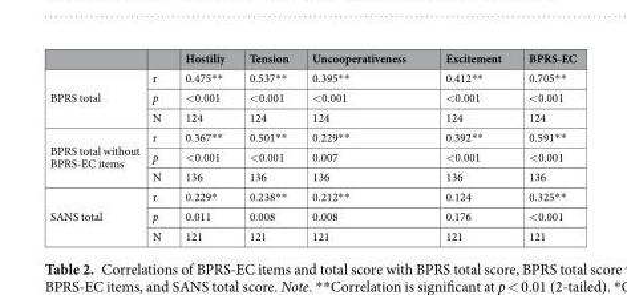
<table><thead><tr><td></td><td></td><td>Hostiliy</td><td>Tension</td><td>Uncooperativeness</td><td>Excitement</td><td>BPRS-EC</td></tr></thead><tbody><tr><td rowspan="3">BPRS total</td><td>r</td><td>0.475**</td><td>0.537**</td><td>0.395**</td><td>0.412**</td><td>0.705**</td></tr><tr><td>p</td><td>&lt;0.001</td><td>&lt;0.001</td><td>&lt;0.001</td><td>&lt;0.001</td><td>&lt;0.001</td></tr><tr><td>N</td><td>124</td><td>124</td><td>124</td><td>124</td><td>124</td></tr><tr><td rowspan="3">BPRS total without BPRS-EC items</td><td>r</td><td>0.367**</td><td>0.501**</td><td>0.229**</td><td>0.392**</td><td>0.591**</td></tr><tr><td>p</td><td>&lt;0.001</td><td>&lt;0.001</td><td>0.007</td><td>&lt;0.001</td><td>&lt;0.001</td></tr><tr><td>N</td><td>136</td><td>136</td><td>136</td><td>136</td><td>136</td></tr><tr><td rowspan="3">SANS total</td><td>r</td><td>0.229*</td><td>0.238**</td><td>0.212**</td><td>0.124</td><td>0.325**</td></tr><tr><td>p</td><td>0.011</td><td>0.008</td><td>0.008</td><td>0.176</td><td>&lt;0.001</td></tr><tr><td>N</td><td>121</td><td>121</td><td>121</td><td>121</td><td>121</td></tr></tbody></table>